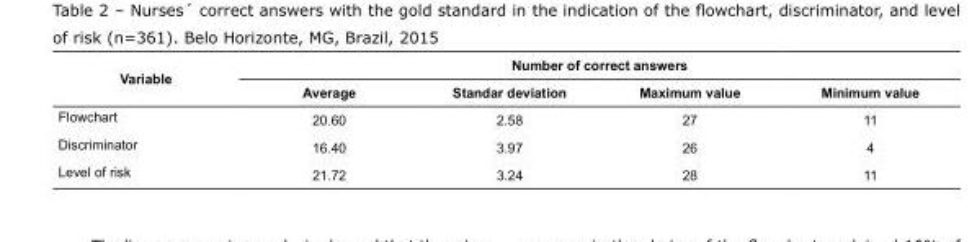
<table><tbody><tr><td rowspan="2">Variable</td><td colspan="4">Number of correct answers</td></tr><tr><td>Average</td><td>Standar deviation</td><td>Maximum value</td><td>Minimum value</td></tr><tr><td>Flowchart</td><td>20.60</td><td>2.58</td><td>27</td><td>11</td></tr><tr><td>Discriminator</td><td>16.40</td><td>3.97</td><td>26</td><td>4</td></tr><tr><td>Level of risk</td><td>21.72</td><td>3.24</td><td>28</td><td>11</td></tr></tbody></table>